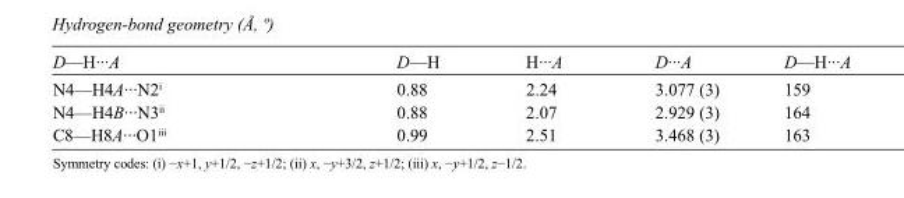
<table><tbody><tr><td>D—H···A</td><td>D—H</td><td>H···A</td><td>D···A</td><td>D—H···A</td></tr><tr><td>N4—H4A···N2<sup>i</sup></td><td>0.88</td><td>2.24</td><td>3.077 (3)</td><td>159</td></tr><tr><td>N4—H4B···N3<sup>ii</sup></td><td>0.88</td><td>2.07</td><td>2.929 (3)</td><td>164</td></tr><tr><td>C8—H8A···O1<sup>iii</sup></td><td>0.99</td><td>2.51</td><td>3.468 (3)</td><td>163</td></tr></tbody></table>